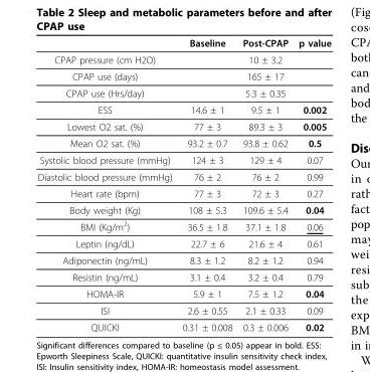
<table><thead><tr><td></td><td>Baseline</td><td>Post-CPAP</td><td>p value</td></tr></thead><tbody><tr><td>CPAP pressure (cm H2O)</td><td></td><td>10 ± 3.2</td><td></td></tr><tr><td>CPAP use (days)</td><td></td><td>165 ± 17</td><td></td></tr><tr><td>CPAP use (Hrs/day)</td><td></td><td>5.3 ± 0.35</td><td></td></tr><tr><td>ESS</td><td>14.6 ± 1</td><td>9.5 ± 1</td><td>0.002</td></tr><tr><td>Lowest O2 sat. (%)</td><td>77 ± 3</td><td>89.3 ± 3</td><td>0.005</td></tr><tr><td>Mean O2 sat. (%)</td><td>93.2 ± 0.7</td><td>93.8 ± 0.62</td><td>0.5</td></tr><tr><td>Systolic blood pressure (mmHg)</td><td>124 ± 3</td><td>129 ± 4</td><td>0.07</td></tr><tr><td>Diastolic blood pressure (mmHg)</td><td>76 ± 2</td><td>76 ± 2</td><td>0.99</td></tr><tr><td>Heart rate (bpm)</td><td>77 ± 3</td><td>72 ± 3</td><td>0.27</td></tr><tr><td>Body weight (Kg)</td><td>108 ± 5.3</td><td>109.6 ± 5.4</td><td>0.04</td></tr><tr><td>BMI (Kg/m<sup>2</sup>)</td><td>36.5 ± 1.8</td><td>37.1 ± 1.8</td><td>0.06</td></tr><tr><td>Leptin (ng/dL)</td><td>22.7 ± 6</td><td>21.6 ± 4</td><td>0.61</td></tr><tr><td>Adiponectin (ng/mL)</td><td>8.3 ± 1.2</td><td>8.2 ± 1.2</td><td>0.94</td></tr><tr><td>Resistin (ng/mL)</td><td>3.1 ± 0.4</td><td>3.2 ± 0.4</td><td>0.79</td></tr><tr><td>HOMA-IR</td><td>5.9 ± 1</td><td>7.5 ± 1.2</td><td>0.04</td></tr><tr><td>ISI</td><td>2.6 ± 0.55</td><td>2.1 ± 0.33</td><td>0.09</td></tr><tr><td>QUICKI</td><td>0.31 ± 0.008</td><td>0.3 ± 0.006</td><td>0.02</td></tr></tbody></table>